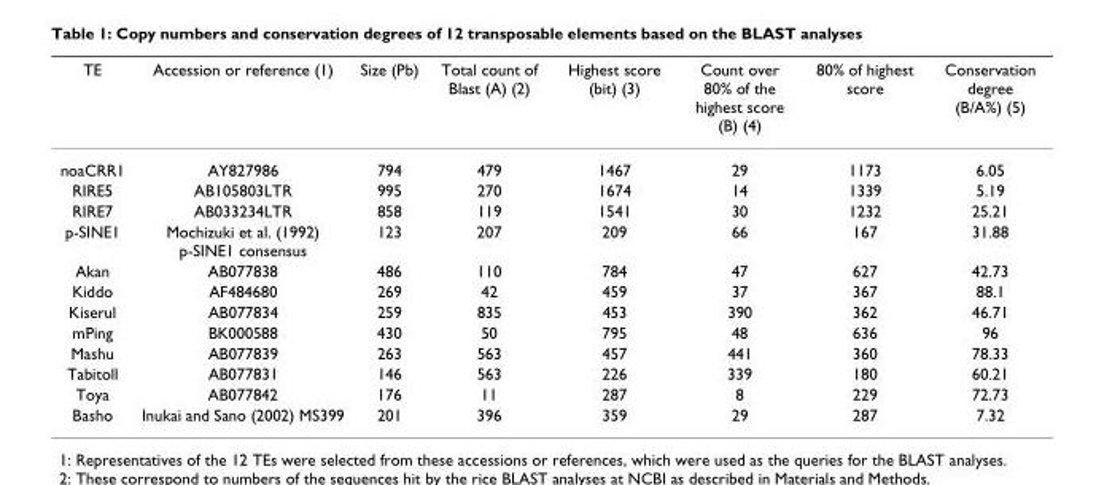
<table><thead><tr><td>TE</td><td>Accession or reference (1)</td><td>Size (Pb)</td><td>Total count of Blast (A) (2)</td><td>Highest score (bit) (3)</td><td>Count over 80% of the highest score (B) (4)</td><td>80% of highest score</td><td>Conservation degree (B/A%) (5)</td></tr></thead><tbody><tr><td>noaCRR1</td><td>AY827986</td><td>794</td><td>479</td><td>1467</td><td>29</td><td>1173</td><td>6.05</td></tr><tr><td>RIRE5</td><td>AB105803LTR</td><td>995</td><td>270</td><td>1674</td><td>14</td><td>1339</td><td>5.19</td></tr><tr><td>RIRE7</td><td>AB033234LTR</td><td>858</td><td>119</td><td>1541</td><td>30</td><td>1232</td><td>25.21</td></tr><tr><td>p-SINE1</td><td>Mochizuki et al. (1992) p-SINE1 consensus</td><td>123</td><td>207</td><td>209</td><td>66</td><td>167</td><td>31.88</td></tr><tr><td>Akan</td><td>AB077838</td><td>486</td><td>110</td><td>784</td><td>47</td><td>627</td><td>42.73</td></tr><tr><td>Kiddo</td><td>AF484680</td><td>269</td><td>42</td><td>459</td><td>37</td><td>367</td><td>88.1</td></tr><tr><td>Kiserul</td><td>AB077834</td><td>259</td><td>835</td><td>453</td><td>390</td><td>362</td><td>46.71</td></tr><tr><td>mPing</td><td>BK000588</td><td>430</td><td>50</td><td>795</td><td>48</td><td>636</td><td>96</td></tr><tr><td>Mashu</td><td>AB077839</td><td>263</td><td>563</td><td>457</td><td>441</td><td>360</td><td>78.33</td></tr><tr><td>Tabitoll</td><td>AB077831</td><td>146</td><td>563</td><td>226</td><td>339</td><td>180</td><td>60.21</td></tr><tr><td>Toya</td><td>AB077842</td><td>176</td><td>11</td><td>287</td><td>8</td><td>229</td><td>72.73</td></tr><tr><td>Basho</td><td>Inukai and Sano (2002) MS399</td><td>201</td><td>396</td><td>359</td><td>29</td><td>287</td><td>7.32</td></tr></tbody></table>